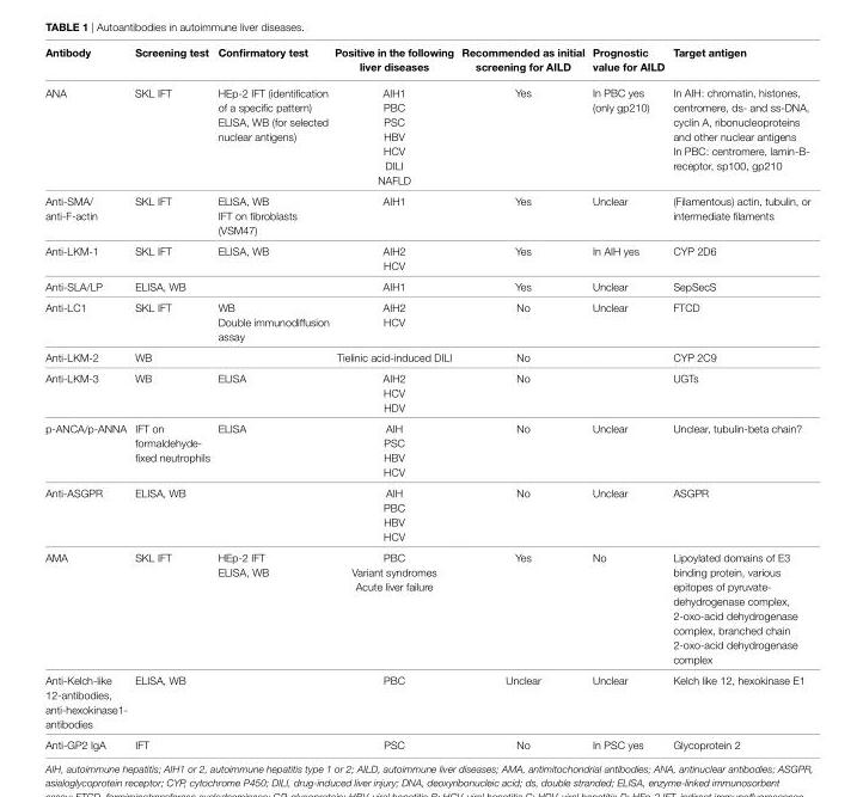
<table><thead><tr><td>Antibody</td><td>Screening test</td><td>Confirmatory test</td><td>Positive in the following liver diseases</td><td>Recommended as initial screening for AiLD</td><td>Prognostic value for AiLD</td><td>Target antigen</td></tr></thead><tbody><tr><td>ANA</td><td>SKL IFT</td><td>HEp-2 IFT (identification of a specific pattern) ELISA, WB (for selected nuclear antigens)</td><td>AIH1 PBC PSC HBV HCV DILI NAFLD</td><td>Yes</td><td>In PBC yes (only gp210)</td><td>In AIH: chromatin, histones, centromere, ds- and ss-DNA, cyclin A, ribonucleoproteins and other nuclear antigens In PBC: centromere, lamin-B- receptor, sp100, gp210</td></tr><tr><td>Anti-SMA/ anti-F-actin</td><td>SKL IFT</td><td>ELISA, WB IFT on fibroblasts (VSM47)</td><td>AIH1</td><td>Yes</td><td>Unclear</td><td>(Filamentous) actin, tubulin, or intermediate filaments</td></tr><tr><td>Anti-LKM-1</td><td>SKL IFT</td><td>ELISA, WB</td><td>AIH2 HCV</td><td>Yes</td><td>In AIH yes</td><td>CYP 2D6</td></tr><tr><td>Anti-SLA/LP</td><td>ELISA, WB</td><td></td><td>AIH1</td><td>Yes</td><td>Unclear</td><td>SepSecS</td></tr><tr><td>Anti-LC1</td><td>SKL IFT</td><td>WB Double immunodiffusion assay</td><td>AIH2 HCV</td><td>No</td><td>Unclear</td><td>FTCD</td></tr><tr><td>Anti-LKM-2</td><td>WB</td><td></td><td>Tielinic acid-induced DILI</td><td>No</td><td></td><td>CYP 2C9</td></tr><tr><td>Anti-LKM-3</td><td>WB</td><td>ELISA</td><td>AIH2 HCV HDV</td><td>No</td><td></td><td>UGTs</td></tr><tr><td>p-ANCA/p-ANNA</td><td>IFT on formaldehyde- fixed neutrophils</td><td>ELISA</td><td>AIH PSC HBV HCV</td><td>No</td><td>Unclear</td><td>Unclear, tubulin-beta chain?</td></tr><tr><td>Anti-ASGPR</td><td>ELISA, WB</td><td></td><td>AIH PBC HBV HCV</td><td>No</td><td>Unclear</td><td>ASGPR</td></tr><tr><td>AMA</td><td>SKL IFT</td><td>HEp-2 IFT ELISA, WB</td><td>PBC Variant syndromes Acute liver failure</td><td>Yes</td><td>No</td><td>Lipoylated domains of E3 binding protein, various epitopes of pyruvate- dehydrogenase complex, 2-oxo-acid dehydrogenase complex, branched chain 2-oxo-acid dehydrogenase complex</td></tr><tr><td>Anti-Kelch-like 12-antibodies, anti-hexokinase1- antibodies</td><td>ELISA, WB</td><td></td><td>PBC</td><td>Unclear</td><td>Unclear</td><td>Kelch like 12, hexokinase E1</td></tr><tr><td>Anti-GP2 IgA</td><td>IFT</td><td></td><td>PSC</td><td>No</td><td>In PSC yes</td><td>Glycoprotein 2</td></tr></tbody></table>